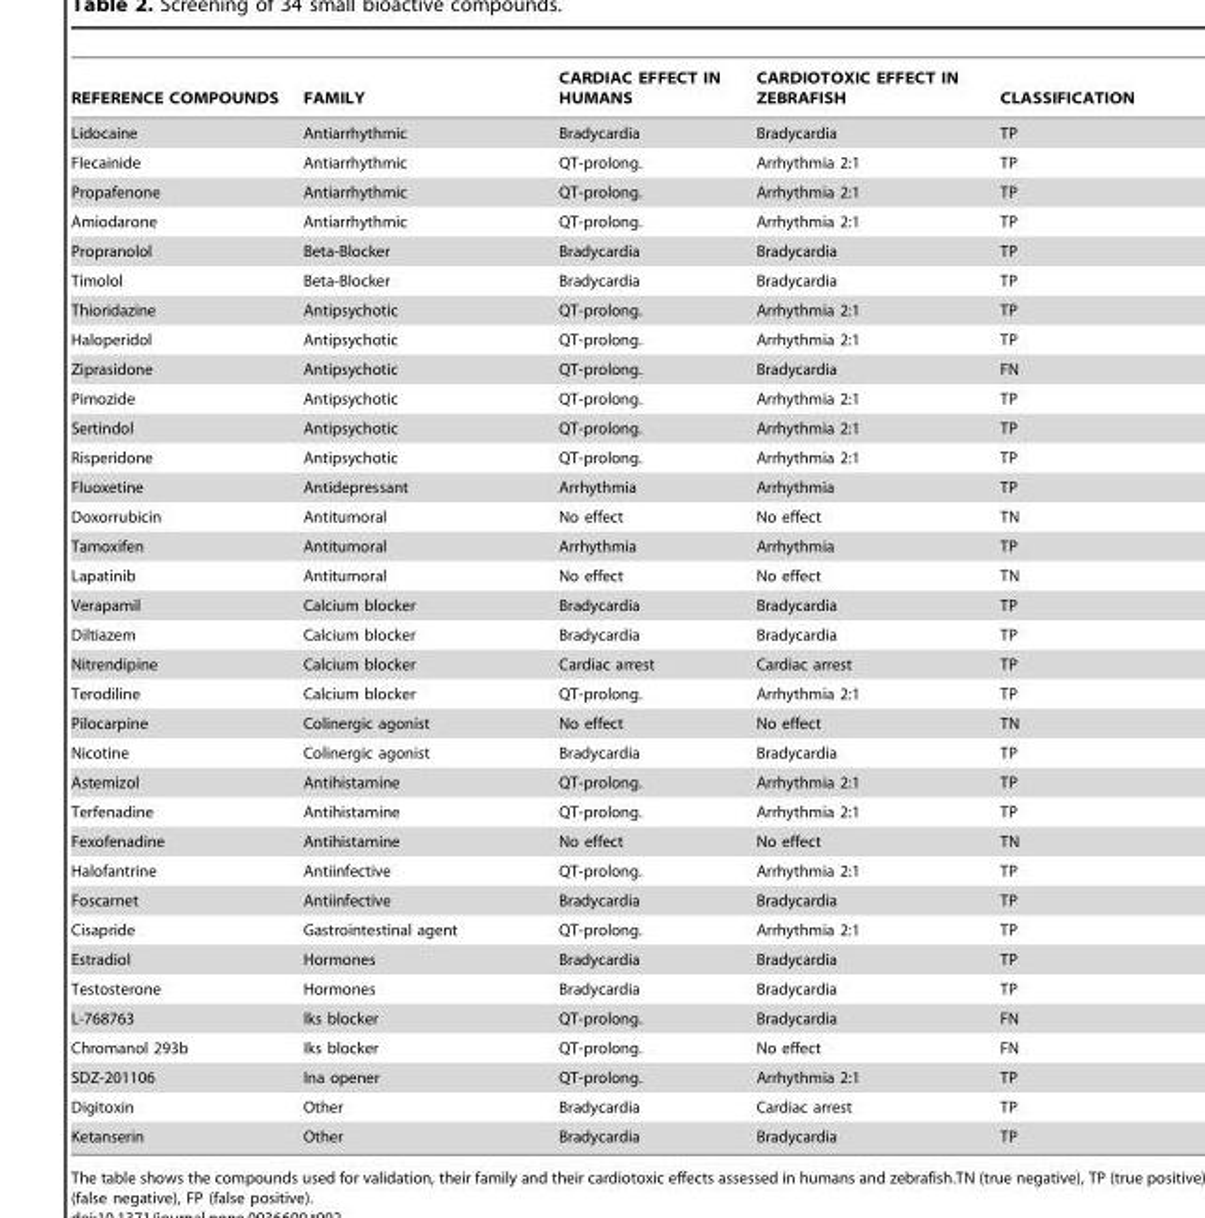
<table><thead><tr><td>REFERENCE COMPOUNDS</td><td>FAMILY</td><td>CARDIAC EFFECT IN HUMANS</td><td>CARDIOTOXIC EFFECT IN ZEBRAFISH</td><td>CLASSIFICATION</td></tr></thead><tbody><tr><td>Lidocaine</td><td>Antiarrhythmic</td><td>Bradycardia</td><td>Bradycardia</td><td>TP</td></tr><tr><td>Flecainide</td><td>Antiarrhythmic</td><td>QT-prolong.</td><td>Arrhythmia 2:1</td><td>TP</td></tr><tr><td>Propafenone</td><td>Antiarrhythmic</td><td>QT-prolong.</td><td>Arrhythmia 2:1</td><td>TP</td></tr><tr><td>Amiodarone</td><td>Antiarrhythmic</td><td>QT-prolong.</td><td>Arrhythmia 2:1</td><td>TP</td></tr><tr><td>Propranolol</td><td>Beta-Blocker</td><td>Bradycardia</td><td>Bradycardia</td><td>TP</td></tr><tr><td>Timolol</td><td>Beta-Blocker</td><td>Bradycardia</td><td>Bradycardia</td><td>TP</td></tr><tr><td>Thioridazine</td><td>Antipsychotic</td><td>QT-prolong.</td><td>Arrhythmia 2:1</td><td>TP</td></tr><tr><td>Haloperidol</td><td>Antipsychotic</td><td>QT-prolong.</td><td>Arrhythmia 2:1</td><td>TP</td></tr><tr><td>Ziprasidone</td><td>Antipsychotic</td><td>QT-prolong.</td><td>Bradycardia</td><td>FN</td></tr><tr><td>Pimozide</td><td>Antipsychotic</td><td>QT-prolong.</td><td>Arrhythmia 2:1</td><td>TP</td></tr><tr><td>Sertindol</td><td>Antipsychotic</td><td>QT-prolong.</td><td>Arrhythmia 2:1</td><td>TP</td></tr><tr><td>Risperidone</td><td>Antipsychotic</td><td>QT-prolong.</td><td>Arrhythmia 2:1</td><td>TP</td></tr><tr><td>Fluoxetine</td><td>Antidepressant</td><td>Arrhythmia</td><td>Arrhythmia</td><td>TP</td></tr><tr><td>Doxorrubicin</td><td>Antitumoral</td><td>No effect</td><td>No effect</td><td>TN</td></tr><tr><td>Tamoxifen</td><td>Antitumoral</td><td>Arrhythmia</td><td>Arrhythmia</td><td>TP</td></tr><tr><td>Lapatinib</td><td>Antitumoral</td><td>No effect</td><td>No effect</td><td>TN</td></tr><tr><td>Verapamil</td><td>Calcium blocker</td><td>Bradycardia</td><td>Bradycardia</td><td>TP</td></tr><tr><td>Diltiazem</td><td>Calcium blocker</td><td>Bradycardia</td><td>Bradycardia</td><td>TP</td></tr><tr><td>Nitrendipine</td><td>Calcium blocker</td><td>Cardiac arrest</td><td>Cardiac arrest</td><td>TP</td></tr><tr><td>Terodiline</td><td>Calcium blocker</td><td>QT-prolong.</td><td>Arrhythmia 2:1</td><td>TP</td></tr><tr><td>Pilocarpine</td><td>Colinergic agonist</td><td>No effect</td><td>No effect</td><td>TN</td></tr><tr><td>Nicotine</td><td>Colinergic agonist</td><td>Bradycardia</td><td>Bradycardia</td><td>TP</td></tr><tr><td>Astemizol</td><td>Antihistamine</td><td>QT-prolong.</td><td>Arrhythmia 2:1</td><td>TP</td></tr><tr><td>Terfenadine</td><td>Antihistamine</td><td>QT-prolong.</td><td>Arrhythmia 2:1</td><td>TP</td></tr><tr><td>Fexofenadine</td><td>Antihistamine</td><td>No effect</td><td>No effect</td><td>TN</td></tr><tr><td>Halofantrine</td><td>Antiinfective</td><td>QT-prolong.</td><td>Arrhythmia 2:1</td><td>TP</td></tr><tr><td>Foscarnet</td><td>Antiinfective</td><td>Bradycardia</td><td>Bradycardia</td><td>TP</td></tr><tr><td>Cisapride</td><td>Gastrointestinal agent</td><td>QT-prolong.</td><td>Arrhythmia 2:1</td><td>TP</td></tr><tr><td>Estradiol</td><td>Hormones</td><td>Bradycardia</td><td>Bradycardia</td><td>TP</td></tr><tr><td>Testosterone</td><td>Hormones</td><td>Bradycardia</td><td>Bradycardia</td><td>TP</td></tr><tr><td>L-768763</td><td>Iks blocker</td><td>QT-prolong.</td><td>Bradycardia</td><td>FN</td></tr><tr><td>Chromanol 293b</td><td>Iks blocker</td><td>QT-prolong.</td><td>No effect</td><td>FN</td></tr><tr><td>SDZ-201106</td><td>Ina opener</td><td>QT-prolong.</td><td>Arrhythmia 2:1</td><td>TP</td></tr><tr><td>Digitoxin</td><td>Other</td><td>Bradycardia</td><td>Cardiac arrest</td><td>TP</td></tr><tr><td>Ketanserin</td><td>Other</td><td>Bradycardia</td><td>Bradycardia</td><td>TP</td></tr></tbody></table>